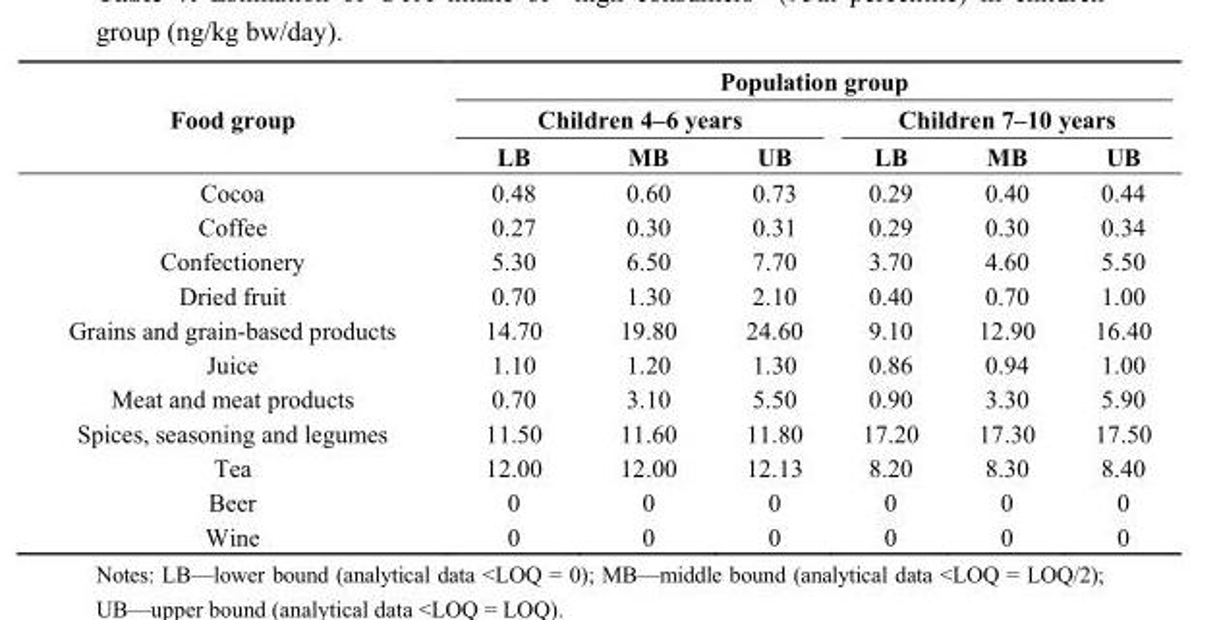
<table><thead><tr><td rowspan="3">Food group</td><td colspan="6">Population group</td></tr><tr><td colspan="3">Children 4–6 years</td><td colspan="3">Children 7–10 years</td></tr><tr><td>LB</td><td>MB</td><td>UB</td><td>LB</td><td>MB</td><td>UB</td></tr></thead><tbody><tr><td>Cocoa</td><td>0.48</td><td>0.60</td><td>0.73</td><td>0.29</td><td>0.40</td><td>0.44</td></tr><tr><td>Coffee</td><td>0.27</td><td>0.30</td><td>0.31</td><td>0.29</td><td>0.30</td><td>0.34</td></tr><tr><td>Confectionery</td><td>5.30</td><td>6.50</td><td>7.70</td><td>3.70</td><td>4.60</td><td>5.50</td></tr><tr><td>Dried fruit</td><td>0.70</td><td>1.30</td><td>2.10</td><td>0.40</td><td>0.70</td><td>1.00</td></tr><tr><td>Grains and grain-based products</td><td>14.70</td><td>19.80</td><td>24.60</td><td>9.10</td><td>12.90</td><td>16.40</td></tr><tr><td>Juice</td><td>1.10</td><td>1.20</td><td>1.30</td><td>0.86</td><td>0.94</td><td>1.00</td></tr><tr><td>Meat and meat products</td><td>0.70</td><td>3.10</td><td>5.50</td><td>0.90</td><td>3.30</td><td>5.90</td></tr><tr><td>Spices, seasoning and legumes</td><td>11.50</td><td>11.60</td><td>11.80</td><td>17.20</td><td>17.30</td><td>17.50</td></tr><tr><td>Tea</td><td>12.00</td><td>12.00</td><td>12.13</td><td>8.20</td><td>8.30</td><td>8.40</td></tr><tr><td>Beer</td><td>0</td><td>0</td><td>0</td><td>0</td><td>0</td><td>0</td></tr><tr><td>Wine</td><td>0</td><td>0</td><td>0</td><td>0</td><td>0</td><td>0</td></tr></tbody></table>